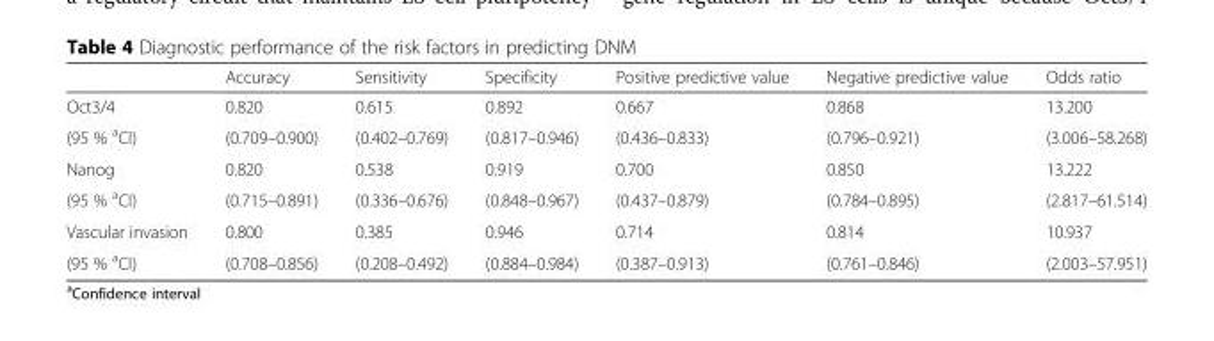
<table><thead><tr><td></td><td>Accuracy</td><td>Sensitivity</td><td>Specificity</td><td>Positive predictive value</td><td>Negative predictive value</td><td>Odds ratio</td></tr></thead><tbody><tr><td>Oct3/4</td><td>0.820</td><td>0.615</td><td>0.892</td><td>0.667</td><td>0.868</td><td>13.200</td></tr><tr><td>(95 % <sup>a</sup>CI)</td><td>(0.709–0.900)</td><td>(0.402–0.769)</td><td>(0.817–0.946)</td><td>(0.436–0.833)</td><td>(0.796–0.921)</td><td>(3.006–58.268)</td></tr><tr><td>Nanog</td><td>0.820</td><td>0.538</td><td>0.919</td><td>0.700</td><td>0.850</td><td>13.222</td></tr><tr><td>(95 % <sup>a</sup>CI)</td><td>(0.715–0.891)</td><td>(0.336–0.676)</td><td>(0.848–0.967)</td><td>(0.437–0.879)</td><td>(0.784–0.895)</td><td>(2.817–61.514)</td></tr><tr><td>Vascular invasion</td><td>0.800</td><td>0.385</td><td>0.946</td><td>0.714</td><td>0.814</td><td>10.937</td></tr><tr><td>(95 % <sup>a</sup>CI)</td><td>(0.708–0.856)</td><td>(0.208–0.492)</td><td>(0.884–0.984)</td><td>(0.387–0.913)</td><td>(0.761–0.846)</td><td>(2.003–57.951)</td></tr></tbody></table>